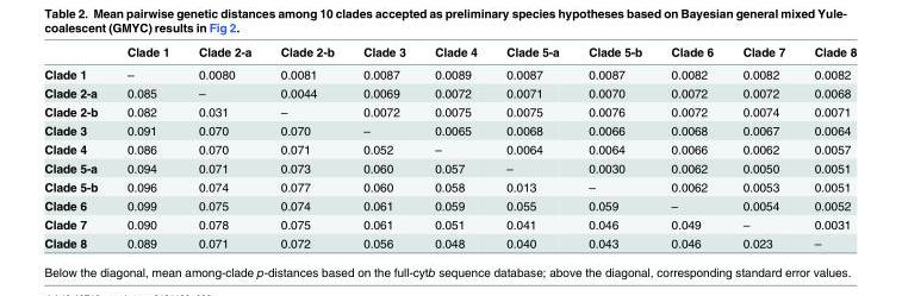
<table><thead><tr><td></td><td>Clade 1</td><td>Clade 2-a</td><td>Clade 2-b</td><td>Clade 3</td><td>Clade 4</td><td>Clade 5-a</td><td>Clade 5-b</td><td>Clade 6</td><td>Clade 7</td><td>Clade 8</td></tr></thead><tbody><tr><td>Clade 1</td><td>–</td><td>0.0080</td><td>0.0081</td><td>0.0087</td><td>0.0089</td><td>0.0087</td><td>0.0087</td><td>0.0082</td><td>0.0082</td><td>0.0082</td></tr><tr><td>Clade 2-a</td><td>0.085</td><td>–</td><td>0.0044</td><td>0.0069</td><td>0.0072</td><td>0.0071</td><td>0.0070</td><td>0.0072</td><td>0.0072</td><td>0.0068</td></tr><tr><td>Clade 2-b</td><td>0.082</td><td>0.031</td><td>–</td><td>0.0072</td><td>0.0075</td><td>0.0075</td><td>0.0076</td><td>0.0072</td><td>0.0074</td><td>0.0071</td></tr><tr><td>Clade 3</td><td>0.091</td><td>0.070</td><td>0.070</td><td>–</td><td>0.0065</td><td>0.0068</td><td>0.0066</td><td>0.0068</td><td>0.0067</td><td>0.0064</td></tr><tr><td>Clade 4</td><td>0.086</td><td>0.070</td><td>0.071</td><td>0.052</td><td>–</td><td>0.0064</td><td>0.0064</td><td>0.0066</td><td>0.0062</td><td>0.0057</td></tr><tr><td>Clade 5-a</td><td>0.094</td><td>0.071</td><td>0.073</td><td>0.060</td><td>0.057</td><td>–</td><td>0.0030</td><td>0.0062</td><td>0.0050</td><td>0.0051</td></tr><tr><td>Clade 5-b</td><td>0.096</td><td>0.074</td><td>0.077</td><td>0.060</td><td>0.058</td><td>0.013</td><td>–</td><td>0.0062</td><td>0.0053</td><td>0.0051</td></tr><tr><td>Clade 6</td><td>0.099</td><td>0.075</td><td>0.074</td><td>0.061</td><td>0.059</td><td>0.055</td><td>0.059</td><td>–</td><td>0.0054</td><td>0.0052</td></tr><tr><td>Clade 7</td><td>0.090</td><td>0.078</td><td>0.075</td><td>0.061</td><td>0.051</td><td>0.041</td><td>0.046</td><td>0.049</td><td>–</td><td>0.0031</td></tr><tr><td>Clade 8</td><td>0.089</td><td>0.071</td><td>0.072</td><td>0.056</td><td>0.048</td><td>0.040</td><td>0.043</td><td>0.046</td><td>0.023</td><td>–</td></tr></tbody></table>